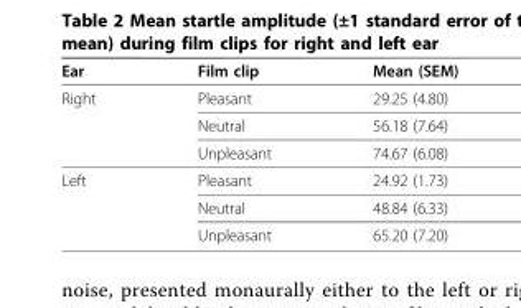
<table><thead><tr><td>Ear</td><td>Film clip</td><td>Mean (SEM)</td></tr></thead><tbody><tr><td rowspan="3">Right</td><td>Pleasant</td><td>29.25 (4.80)</td></tr><tr><td>Neutral</td><td>56.18 (7.64)</td></tr><tr><td>Unpleasant</td><td>74.67 (6.08)</td></tr><tr><td rowspan="3">Left</td><td>Pleasant</td><td>24.92 (1.73)</td></tr><tr><td>Neutral</td><td>48.84 (6.33)</td></tr><tr><td>Unpleasant</td><td>65.20 (7.20)</td></tr></tbody></table>